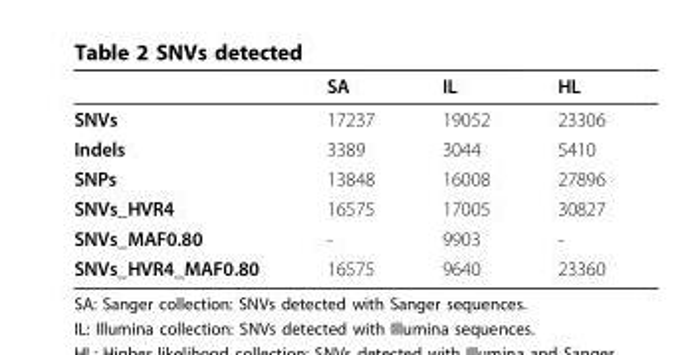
<table><thead><tr><td></td><td>SA</td><td>IL</td><td>HL</td></tr></thead><tbody><tr><td>SNVs</td><td>17237</td><td>19052</td><td>23306</td></tr><tr><td>Indels</td><td>3389</td><td>3044</td><td>5410</td></tr><tr><td>SNPs</td><td>13848</td><td>16008</td><td>27896</td></tr><tr><td>SNVs_HVR4</td><td>16575</td><td>17005</td><td>30827</td></tr><tr><td>SNVs_MAF0.80</td><td>-</td><td>9903</td><td>-</td></tr><tr><td>SNVs_HVR4_MAF0.80</td><td>16575</td><td>9640</td><td>23360</td></tr></tbody></table>